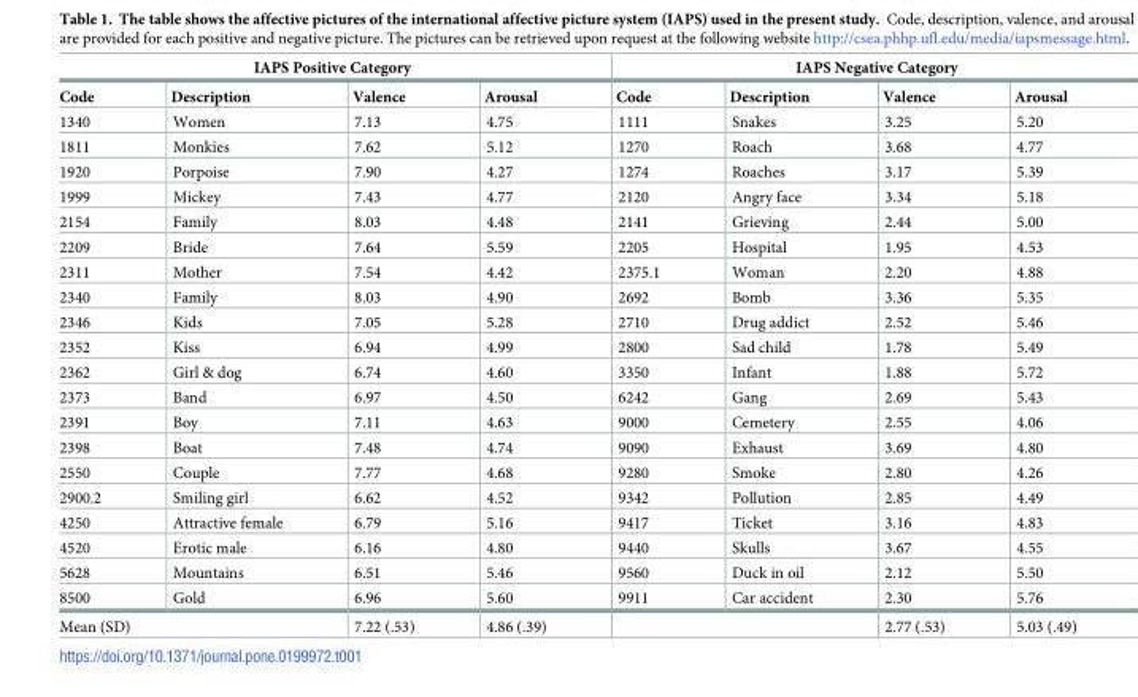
<table><thead><tr><td colspan="4">IAPS Positive Category</td><td colspan="4">IAPS Negative Category</td></tr><tr><td>Code</td><td>Description</td><td>Valence</td><td>Arousal</td><td>Code</td><td>Description</td><td>Valence</td><td>Arousal</td></tr></thead><tbody><tr><td>1340</td><td>Women</td><td>7.13</td><td>4.75</td><td>1111</td><td>Snakes</td><td>3.25</td><td>5.20</td></tr><tr><td>1811</td><td>Monkies</td><td>7.62</td><td>5.12</td><td>1270</td><td>Roach</td><td>3.68</td><td>4.77</td></tr><tr><td>1920</td><td>Porpoise</td><td>7.90</td><td>4.27</td><td>1274</td><td>Roaches</td><td>3.17</td><td>5.39</td></tr><tr><td>1999</td><td>Mickey</td><td>7.43</td><td>4.77</td><td>2120</td><td>Angry face</td><td>3.34</td><td>5.18</td></tr><tr><td>2154</td><td>Family</td><td>8.03</td><td>4.48</td><td>2141</td><td>Grieving</td><td>2.44</td><td>5.00</td></tr><tr><td>2209</td><td>Bride</td><td>7.64</td><td>5.59</td><td>2205</td><td>Hospital</td><td>1.95</td><td>4.53</td></tr><tr><td>2311</td><td>Mother</td><td>7.54</td><td>4.42</td><td>2375.1</td><td>Woman</td><td>2.20</td><td>4.88</td></tr><tr><td>2340</td><td>Family</td><td>8.03</td><td>4.90</td><td>2692</td><td>Bomb</td><td>3.36</td><td>5.35</td></tr><tr><td>2346</td><td>Kids</td><td>7.05</td><td>5.28</td><td>2710</td><td>Drug addict</td><td>2.52</td><td>5.46</td></tr><tr><td>2352</td><td>Kiss</td><td>6.94</td><td>4.99</td><td>2800</td><td>Sad child</td><td>1.78</td><td>5.49</td></tr><tr><td>2362</td><td>Girl &amp; dog</td><td>6.74</td><td>4.60</td><td>3350</td><td>Infant</td><td>1.88</td><td>5.72</td></tr><tr><td>2373</td><td>Band</td><td>6.97</td><td>4.50</td><td>6242</td><td>Gang</td><td>2.69</td><td>5.43</td></tr><tr><td>2391</td><td>Boy</td><td>7.11</td><td>4.63</td><td>9000</td><td>Cemetery</td><td>2.55</td><td>4.06</td></tr><tr><td>2398</td><td>Boat</td><td>7.48</td><td>4.74</td><td>9090</td><td>Exhaust</td><td>3.69</td><td>4.80</td></tr><tr><td>2550</td><td>Couple</td><td>7.77</td><td>4.68</td><td>9280</td><td>Smoke</td><td>2.80</td><td>4.26</td></tr><tr><td>2900.2</td><td>Smiling girl</td><td>6.62</td><td>4.52</td><td>9342</td><td>Pollution</td><td>2.85</td><td>4.49</td></tr><tr><td>4250</td><td>Attractive female</td><td>6.79</td><td>5.16</td><td>9417</td><td>Ticket</td><td>3.16</td><td>4.83</td></tr><tr><td>4520</td><td>Erotic male</td><td>6.16</td><td>4.80</td><td>9440</td><td>Skulls</td><td>3.67</td><td>4.55</td></tr><tr><td>5628</td><td>Mountains</td><td>6.51</td><td>5.46</td><td>9560</td><td>Duck in oil</td><td>2.12</td><td>5.50</td></tr><tr><td>8500</td><td>Gold</td><td>6.96</td><td>5.60</td><td>9911</td><td>Car accident</td><td>2.30</td><td>5.76</td></tr><tr><td colspan="2">Mean (SD)</td><td>7.22 (.53)</td><td>4.86 (.39)</td><td colspan="2"></td><td>2.77 (.53)</td><td>5.03 (.49)</td></tr></tbody></table>